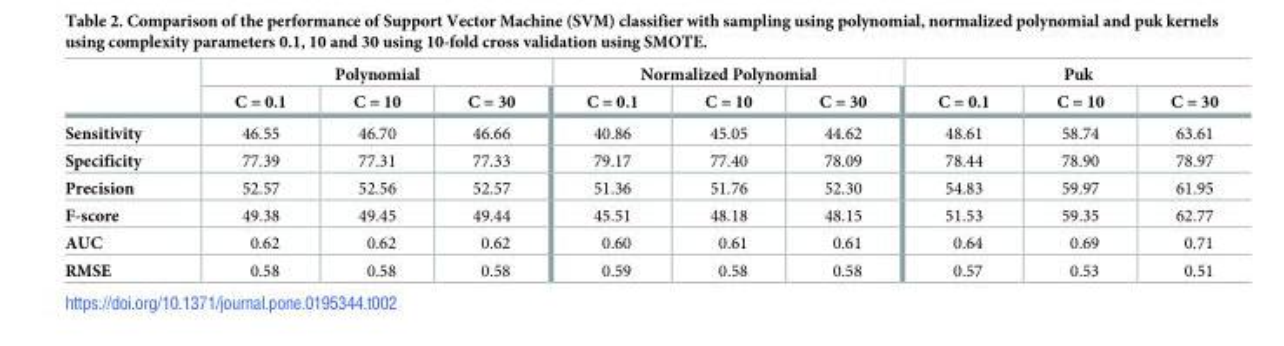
<table><thead><tr><td rowspan="2"></td><td colspan="3">Polynomial</td><td colspan="3">Normalized Polynomial</td><td colspan="3">Puk</td></tr><tr><td>C = 0.1</td><td>C = 10</td><td>C = 30</td><td>C = 0.1</td><td>C = 10</td><td>C = 30</td><td>C = 0.1</td><td>C = 10</td><td>C = 30</td></tr></thead><tbody><tr><td>Sensitivity</td><td>46.55</td><td>46.70</td><td>46.66</td><td>40.86</td><td>45.05</td><td>44.62</td><td>48.61</td><td>58.74</td><td>63.61</td></tr><tr><td>Specificity</td><td>77.39</td><td>77.31</td><td>77.33</td><td>79.17</td><td>77.40</td><td>78.09</td><td>78.44</td><td>78.90</td><td>78.97</td></tr><tr><td>Precision</td><td>52.57</td><td>52.56</td><td>52.57</td><td>51.36</td><td>51.76</td><td>52.30</td><td>54.83</td><td>59.97</td><td>61.95</td></tr><tr><td>F-score</td><td>49.38</td><td>49.45</td><td>49.44</td><td>45.51</td><td>48.18</td><td>48.15</td><td>51.53</td><td>59.35</td><td>62.77</td></tr><tr><td>AUC</td><td>0.62</td><td>0.62</td><td>0.62</td><td>0.60</td><td>0.61</td><td>0.61</td><td>0.64</td><td>0.69</td><td>0.71</td></tr><tr><td>RMSE</td><td>0.58</td><td>0.58</td><td>0.58</td><td>0.59</td><td>0.58</td><td>0.58</td><td>0.57</td><td>0.53</td><td>0.51</td></tr></tbody></table>